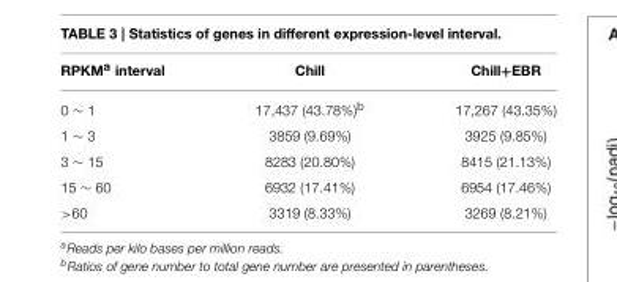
<table><thead><tr><td>RPKM<sup>a</sup> interval</td><td>Chill</td><td>Chill+EBR</td></tr></thead><tbody><tr><td>0 ∼ 1</td><td>17,437 (43.78%)<sup>b</sup></td><td>17,267 (43.35%)</td></tr><tr><td>1 ∼ 3</td><td>3859 (9.69%)</td><td>3925 (9.85%)</td></tr><tr><td>3 ∼ 15</td><td>8283 (20.80%)</td><td>8415 (21.13%)</td></tr><tr><td>15 ∼ 60</td><td>6932 (17.41%)</td><td>6954 (17.46%)</td></tr><tr><td>&gt;60</td><td>3319 (8.33%)</td><td>3269 (8.21%)</td></tr></tbody></table>